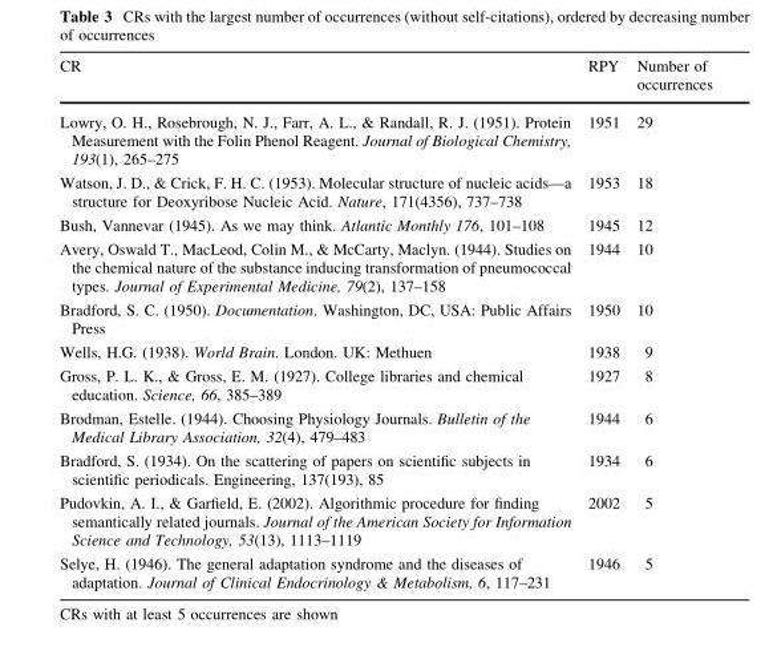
<table><thead><tr><td>CR</td><td>RPY</td><td>Number of occurrences</td></tr></thead><tbody><tr><td>Lowry, O. H., Rosebrough, N. J., Farr, A. L., &amp; Randall, R. J. (1951). Protein Measurement with the Folin Phenol Reagent. Journal of Biological Chemistry, 193(1), 265–275</td><td>1951</td><td>29</td></tr><tr><td>Watson, J. D., &amp; Crick, F. H. C. (1953). Molecular structure of nucleic acids—a structure for Deoxyribose Nucleic Acid. Nature, 171(4356), 737–738</td><td>1953</td><td>18</td></tr><tr><td>Bush, Vannevar (1945). As we may think. Atlantic Monthly 176, 101–108</td><td>1945</td><td>12</td></tr><tr><td>Avery, Oswald T., MacLeod, Colin M., &amp; McCarty, Maclyn. (1944). Studies on the chemical nature of the substance inducing transformation of pneumococcal types. Journal of Experimental Medicine, 79(2), 137–158</td><td>1944</td><td>10</td></tr><tr><td>Bradford, S. C. (1950). Documentation. Washington, DC, USA: Public Affairs Press</td><td>1950</td><td>10</td></tr><tr><td>Wells, H.G. (1938). World Brain. London. UK: Methuen</td><td>1938</td><td>9</td></tr><tr><td>Gross, P. L. K., &amp; Gross, E. M. (1927). College libraries and chemical education. Science, 66, 385–389</td><td>1927</td><td>8</td></tr><tr><td>Brodman, Estelle. (1944). Choosing Physiology Journals. Bulletin of the Medical Library Association, 32(4), 479–483</td><td>1944</td><td>6</td></tr><tr><td>Bradford, S. (1934). On the scattering of papers on scientific subjects in scientific periodicals. Engineering, 137(193), 85</td><td>1934</td><td>6</td></tr><tr><td>Pudovkin, A. I., &amp; Garfield, E. (2002). Algorithmic procedure for finding semantically related journals. Journal of the American Society for Information Science and Technology, 53(13), 1113–1119</td><td>2002</td><td>5</td></tr><tr><td>Selye, H. (1946). The general adaptation syndrome and the diseases of adaptation. Journal of Clinical Endocrinology &amp; Metabolism, 6, 117–231</td><td>1946</td><td>5</td></tr></tbody></table>